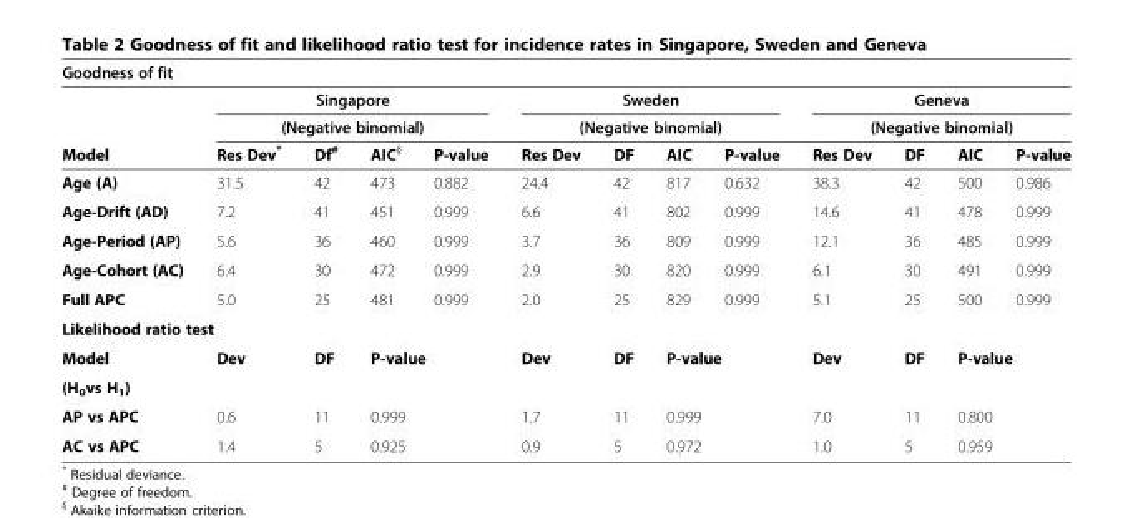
<table><thead><tr><td colspan="13">Goodness of fit</td></tr><tr><td rowspan="3">Model</td><td rowspan="2" colspan="4">Singapore (Negative binomial)</td><td rowspan="2" colspan="4">Sweden (Negative binomial)</td><td rowspan="2" colspan="4">Geneva (Negative binomial)</td></tr><tr></tr><tr><td>Res Dev*</td><td>Df<sup>#</sup></td><td>AIC<sup>§</sup></td><td>P-value</td><td>Res Dev</td><td>DF</td><td>AIC</td><td>P-value</td><td>Res Dev</td><td>DF</td><td>AIC</td><td>P-value</td></tr></thead><tbody><tr><td>Age (A)</td><td>31.5</td><td>42</td><td>473</td><td>0.882</td><td>24.4</td><td>42</td><td>817</td><td>0.632</td><td>38.3</td><td>42</td><td>500</td><td>0.986</td></tr><tr><td>Age-Drift (AD)</td><td>7.2</td><td>41</td><td>451</td><td>0.999</td><td>6.6</td><td>41</td><td>802</td><td>0.999</td><td>14.6</td><td>41</td><td>478</td><td>0.999</td></tr><tr><td>Age-Period (AP)</td><td>5.6</td><td>36</td><td>460</td><td>0.999</td><td>3.7</td><td>36</td><td>809</td><td>0.999</td><td>12.1</td><td>36</td><td>485</td><td>0.999</td></tr><tr><td>Age-Cohort (AC)</td><td>6.4</td><td>30</td><td>472</td><td>0.999</td><td>2.9</td><td>30</td><td>820</td><td>0.999</td><td>6.1</td><td>30</td><td>491</td><td>0.999</td></tr><tr><td>Full APC</td><td>5.0</td><td>25</td><td>481</td><td>0.999</td><td>2.0</td><td>25</td><td>829</td><td>0.999</td><td>5.1</td><td>25</td><td>500</td><td>0.999</td></tr><tr><td colspan="13">Likelihood ratio test</td></tr><tr><td>Model</td><td rowspan="2">Dev</td><td rowspan="2">DF</td><td rowspan="2" colspan="2">P-value</td><td rowspan="2">Dev</td><td rowspan="2">DF</td><td rowspan="2" colspan="2">P-value</td><td rowspan="2">Dev</td><td rowspan="2">DF</td><td rowspan="2" colspan="2">P-value</td></tr><tr><td>(H<sub>0</sub>vs H<sub>1</sub>)</td></tr><tr><td>AP vs APC</td><td>0.6</td><td>11</td><td colspan="2">0.999</td><td>1.7</td><td>11</td><td colspan="2">0.999</td><td>7.0</td><td>11</td><td colspan="2">0.800</td></tr><tr><td>AC vs APC</td><td>1.4</td><td>5</td><td colspan="2">0.925</td><td>0.9</td><td>5</td><td colspan="2">0.972</td><td>1.0</td><td>5</td><td colspan="2">0.959</td></tr></tbody></table>